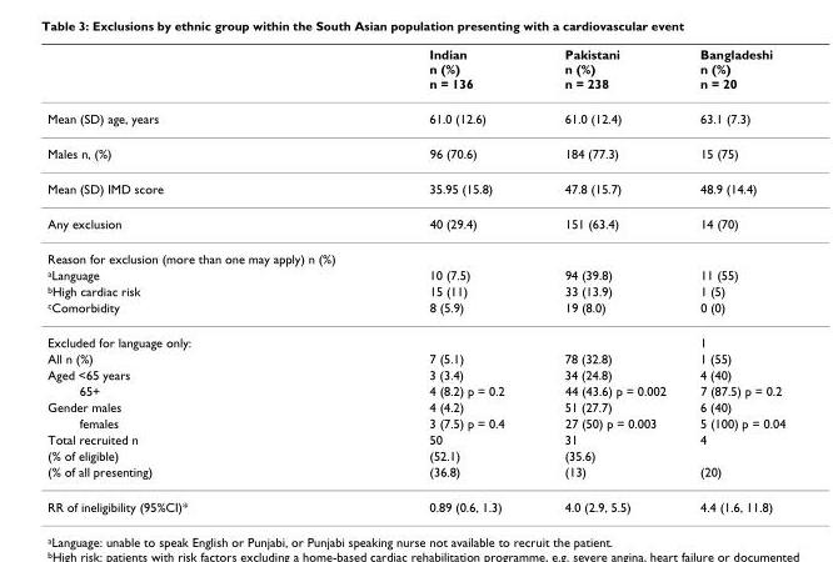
<table><thead><tr><td></td><td>Indian n (%) n = 136</td><td>Pakistani n (%) n = 238</td><td>Bangladeshi n (%) n = 20</td></tr></thead><tbody><tr><td>Mean (SD) age, years</td><td>61.0 (12.6)</td><td>61.0 (12.4)</td><td>63.1 (7.3)</td></tr><tr><td>Males n, (%)</td><td>96 (70.6)</td><td>184 (77.3)</td><td>15 (75)</td></tr><tr><td>Mean (SD) IMD score</td><td>35.95 (15.8)</td><td>47.8 (15.7)</td><td>48.9 (14.4)</td></tr><tr><td>Any exclusion</td><td>40 (29.4)</td><td>151 (63.4)</td><td>14 (70)</td></tr><tr><td colspan="4">Reason for exclusion (more than one may apply) n (%)</td></tr><tr><td><sup>a</sup>Language</td><td>10 (7.5)</td><td>94 (39.8)</td><td>11 (55)</td></tr><tr><td><sup>b</sup>High cardiac risk</td><td>15 (11)</td><td>33 (13.9)</td><td>1 (5)</td></tr><tr><td><sup>c</sup>Comorbidity</td><td>8 (5.9)</td><td>19 (8.0)</td><td>0 (0)</td></tr><tr><td>Excluded for language only:</td><td></td><td></td><td>1</td></tr><tr><td>All n (%)</td><td>7 (5.1)</td><td>78 (32.8)</td><td>1 (55)</td></tr><tr><td>Aged &lt;65 years</td><td>3 (3.4)</td><td>34 (24.8)</td><td>4 (40)</td></tr><tr><td>65+</td><td>4 (8.2) p = 0.2</td><td>44 (43.6) p = 0.002</td><td>7 (87.5) p = 0.2</td></tr><tr><td>Gender males</td><td>4 (4.2)</td><td>51 (27.7)</td><td>6 (40)</td></tr><tr><td>females</td><td>3 (7.5) p = 0.4</td><td>27 (50) p = 0.003</td><td>5 (100) p = 0.04</td></tr><tr><td>Total recruited n</td><td>50</td><td>31</td><td>4</td></tr><tr><td>(% of eligible)</td><td>(52.1)</td><td>(35.6)</td><td></td></tr><tr><td>(% of all presenting)</td><td>(36.8)</td><td>(13)</td><td>(20)</td></tr><tr><td>RR of ineligibility (95%CI)*</td><td>0.89 (0.6, 1.3)</td><td>4.0 (2.9, 5.5)</td><td>4.4 (1.6, 11.8)</td></tr></tbody></table>